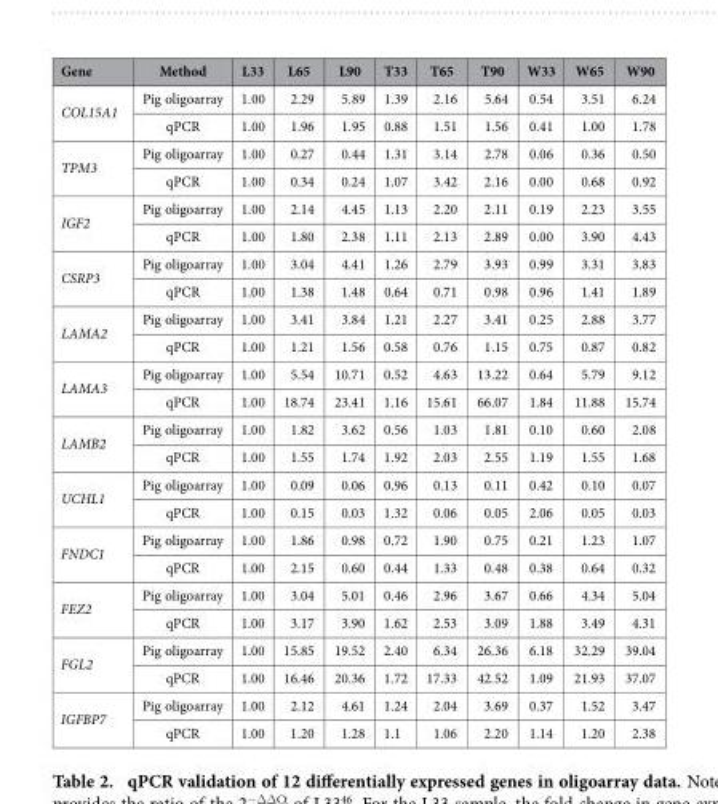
<table><thead><tr><td>Gene</td><td>Method</td><td>L33</td><td>L65</td><td>L90</td><td>T33</td><td>T65</td><td>T90</td><td>W33</td><td>W65</td><td>W90</td></tr></thead><tbody><tr><td rowspan="2">COL15A1</td><td>Pig oligoarray</td><td>1.00</td><td>2.29</td><td>5.89</td><td>1.39</td><td>2.16</td><td>5.64</td><td>0.54</td><td>3.51</td><td>6.24</td></tr><tr><td>qPCR</td><td>1.00</td><td>1.96</td><td>1.95</td><td>0.88</td><td>1.51</td><td>1.56</td><td>0.41</td><td>1.00</td><td>1.78</td></tr><tr><td rowspan="2">TPM3</td><td>Pig oligoarray</td><td>1.00</td><td>0.27</td><td>0.44</td><td>1.31</td><td>3.14</td><td>2.78</td><td>0.06</td><td>0.36</td><td>0.50</td></tr><tr><td>qPCR</td><td>1.00</td><td>0.34</td><td>0.24</td><td>1.07</td><td>3.42</td><td>2.16</td><td>0.00</td><td>0.68</td><td>0.92</td></tr><tr><td rowspan="2">IGF2</td><td>Pig oligoarray</td><td>1.00</td><td>2.14</td><td>4.45</td><td>1.13</td><td>2.20</td><td>2.11</td><td>0.19</td><td>2.23</td><td>3.55</td></tr><tr><td>qPCR</td><td>1.00</td><td>1.80</td><td>2.38</td><td>1.11</td><td>2.13</td><td>2.89</td><td>0.00</td><td>3.90</td><td>4.43</td></tr><tr><td rowspan="2">CSRP3</td><td>Pig oligoarray</td><td>1.00</td><td>3.04</td><td>4.41</td><td>1.26</td><td>2.79</td><td>3.93</td><td>0.99</td><td>3.31</td><td>3.83</td></tr><tr><td>qPCR</td><td>1.00</td><td>1.38</td><td>1.48</td><td>0.64</td><td>0.71</td><td>0.98</td><td>0.96</td><td>1.41</td><td>1.89</td></tr><tr><td rowspan="2">LAMA2</td><td>Pig oligoarray</td><td>1.00</td><td>3.41</td><td>3.84</td><td>1.21</td><td>2.27</td><td>3.41</td><td>0.25</td><td>2.88</td><td>3.77</td></tr><tr><td>qPCR</td><td>1.00</td><td>1.21</td><td>1.56</td><td>0.58</td><td>0.76</td><td>1.15</td><td>0.75</td><td>0.87</td><td>0.82</td></tr><tr><td rowspan="2">LAMA3</td><td>Pig oligoarray</td><td>1.00</td><td>5.54</td><td>10.71</td><td>0.52</td><td>4.63</td><td>13.22</td><td>0.64</td><td>5.79</td><td>9.12</td></tr><tr><td>qPCR</td><td>1.00</td><td>18.74</td><td>23.41</td><td>1.16</td><td>15.61</td><td>66.07</td><td>1.84</td><td>11.88</td><td>15.74</td></tr><tr><td rowspan="2">LAMB2</td><td>Pig oligoarray</td><td>1.00</td><td>1.82</td><td>3.62</td><td>0.56</td><td>1.03</td><td>1.81</td><td>0.10</td><td>0.60</td><td>2.08</td></tr><tr><td>qPCR</td><td>1.00</td><td>1.55</td><td>1.74</td><td>1.92</td><td>2.03</td><td>2.55</td><td>1.19</td><td>1.55</td><td>1.68</td></tr><tr><td rowspan="2">UCHL1</td><td>Pig oligoarray</td><td>1.00</td><td>0.09</td><td>0.06</td><td>0.96</td><td>0.13</td><td>0.11</td><td>0.42</td><td>0.10</td><td>0.07</td></tr><tr><td>qPCR</td><td>1.00</td><td>0.15</td><td>0.03</td><td>1.32</td><td>0.06</td><td>0.05</td><td>2.06</td><td>0.05</td><td>0.03</td></tr><tr><td rowspan="2">FNDC1</td><td>Pig oligoarray</td><td>1.00</td><td>1.86</td><td>0.98</td><td>0.72</td><td>1.90</td><td>0.75</td><td>0.21</td><td>1.23</td><td>1.07</td></tr><tr><td>qPCR</td><td>1.00</td><td>2.15</td><td>0.60</td><td>0.44</td><td>1.33</td><td>0.48</td><td>0.38</td><td>0.64</td><td>0.32</td></tr><tr><td rowspan="2">FEZ2</td><td>Pig oligoarray</td><td>1.00</td><td>3.04</td><td>5.01</td><td>0.46</td><td>2.96</td><td>3.67</td><td>0.66</td><td>4.34</td><td>5.04</td></tr><tr><td>qPCR</td><td>1.00</td><td>3.17</td><td>3.90</td><td>1.62</td><td>2.53</td><td>3.09</td><td>1.88</td><td>3.49</td><td>4.31</td></tr><tr><td rowspan="2">FGL2</td><td>Pig oligoarray</td><td>1.00</td><td>15.85</td><td>19.52</td><td>2.40</td><td>6.34</td><td>26.36</td><td>6.18</td><td>32.29</td><td>39.04</td></tr><tr><td>qPCR</td><td>1.00</td><td>16.46</td><td>20.36</td><td>1.72</td><td>17.33</td><td>42.52</td><td>1.09</td><td>21.93</td><td>37.07</td></tr><tr><td rowspan="2">IGFBP7</td><td>Pig oligoarray</td><td>1.00</td><td>2.12</td><td>4.61</td><td>1.24</td><td>2.04</td><td>3.69</td><td>0.37</td><td>1.52</td><td>3.47</td></tr><tr><td>qPCR</td><td>1.00</td><td>1.20</td><td>1.28</td><td>1.1</td><td>1.06</td><td>2.20</td><td>1.14</td><td>1.20</td><td>2.38</td></tr></tbody></table>